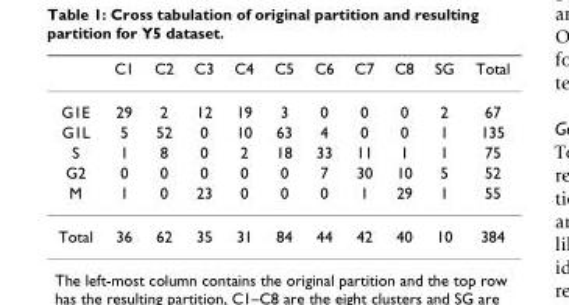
<table><thead><tr><td></td><td>C1</td><td>C2</td><td>C3</td><td>C4</td><td>C5</td><td>C6</td><td>C7</td><td>C8</td><td>SG</td><td>Total</td></tr></thead><tbody><tr><td>G1E</td><td>29</td><td>2</td><td>12</td><td>19</td><td>3</td><td>0</td><td>0</td><td>0</td><td>2</td><td>67</td></tr><tr><td>G1L</td><td>5</td><td>52</td><td>0</td><td>10</td><td>63</td><td>4</td><td>0</td><td>0</td><td>1</td><td>135</td></tr><tr><td>S</td><td>1</td><td>8</td><td>0</td><td>2</td><td>18</td><td>33</td><td>11</td><td>1</td><td>1</td><td>75</td></tr><tr><td>G2</td><td>0</td><td>0</td><td>0</td><td>0</td><td>0</td><td>7</td><td>30</td><td>10</td><td>5</td><td>52</td></tr><tr><td>M</td><td>1</td><td>0</td><td>23</td><td>0</td><td>0</td><td>0</td><td>1</td><td>29</td><td>1</td><td>55</td></tr><tr><td>Total</td><td>36</td><td>62</td><td>35</td><td>31</td><td>84</td><td>44</td><td>42</td><td>40</td><td>10</td><td>384</td></tr></tbody></table>